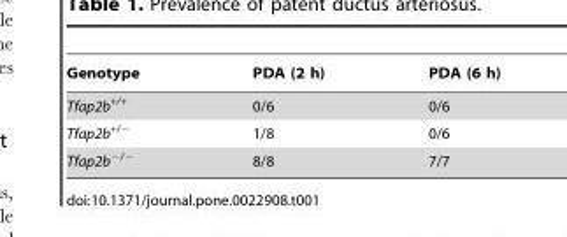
<table><thead><tr><td>Genotype</td><td>PDA (2 h)</td><td>PDA (6 h)</td></tr></thead><tbody><tr><td>Tfap2b<sup>+/+</sup></td><td>0/6</td><td>0/6</td></tr><tr><td>Tfap2b<sup>+/−</sup></td><td>1/8</td><td>0/6</td></tr><tr><td>Tfap2b<sup>−/−</sup></td><td>8/8</td><td>7/7</td></tr></tbody></table>